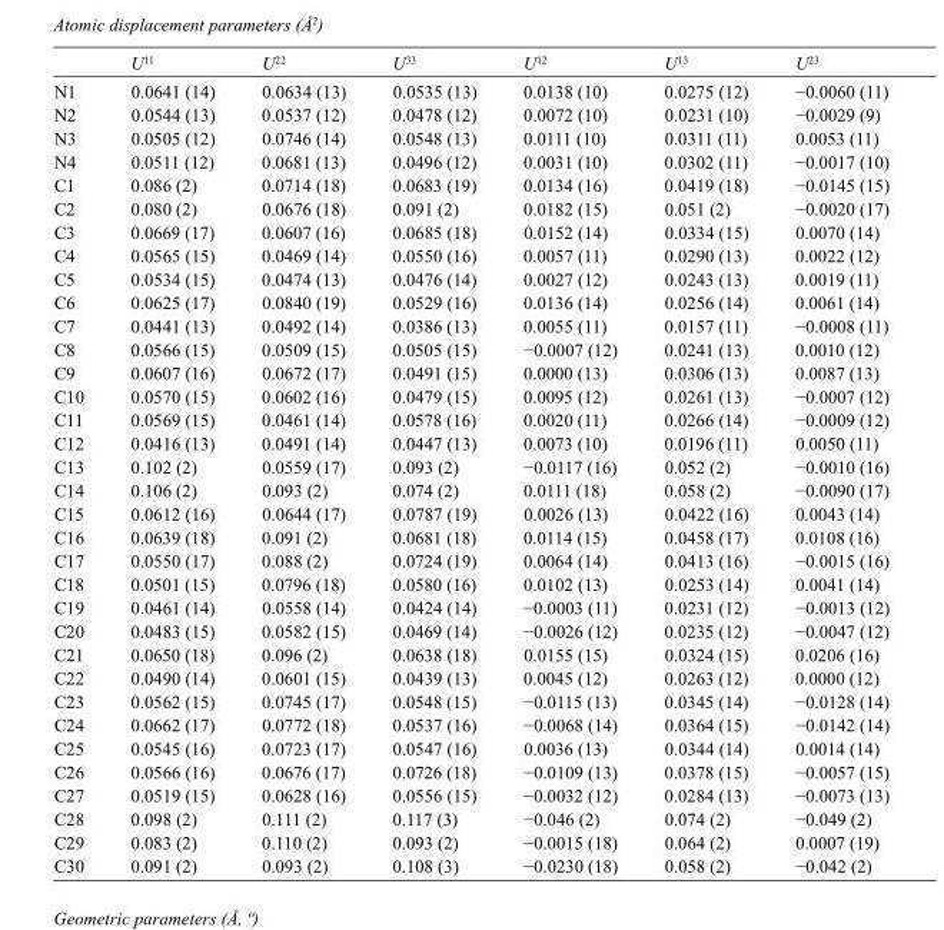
<table><thead><tr><td></td><td>U<sup>11</sup></td><td>U<sup>22</sup></td><td>U<sup>33</sup></td><td>U<sup>12</sup></td><td>U<sup>13</sup></td><td>U<sup>23</sup></td></tr></thead><tbody><tr><td>N1</td><td>0.0641 (14)</td><td>0.0634 (13)</td><td>0.0535 (13)</td><td>0.0138 (10)</td><td>0.0275 (12)</td><td>−0.0060 (11)</td></tr><tr><td>N2</td><td>0.0544 (13)</td><td>0.0537 (12)</td><td>0.0478 (12)</td><td>0.0072 (10)</td><td>0.0231 (10)</td><td>−0.0029 (9)</td></tr><tr><td>N3</td><td>0.0505 (12)</td><td>0.0746 (14)</td><td>0.0548 (13)</td><td>0.0111 (10)</td><td>0.0311 (11)</td><td>0.0053 (11)</td></tr><tr><td>N4</td><td>0.0511 (12)</td><td>0.0681 (13)</td><td>0.0496 (12)</td><td>0.0031 (10)</td><td>0.0302 (11)</td><td>−0.0017 (10)</td></tr><tr><td>C1</td><td>0.086 (2)</td><td>0.0714 (18)</td><td>0.0683 (19)</td><td>0.0134 (16)</td><td>0.0419 (18)</td><td>−0.0145 (15)</td></tr><tr><td>C2</td><td>0.080 (2)</td><td>0.0676 (18)</td><td>0.091 (2)</td><td>0.0182 (15)</td><td>0.051 (2)</td><td>−0.0020 (17)</td></tr><tr><td>C3</td><td>0.0669 (17)</td><td>0.0607 (16)</td><td>0.0685 (18)</td><td>0.0152 (14)</td><td>0.0334 (15)</td><td>0.0070 (14)</td></tr><tr><td>C4</td><td>0.0565 (15)</td><td>0.0469 (14)</td><td>0.0550 (16)</td><td>0.0057 (11)</td><td>0.0290 (13)</td><td>0.0022 (12)</td></tr><tr><td>C5</td><td>0.0534 (15)</td><td>0.0474 (13)</td><td>0.0476 (14)</td><td>0.0027 (12)</td><td>0.0243 (13)</td><td>0.0019 (11)</td></tr><tr><td>C6</td><td>0.0625 (17)</td><td>0.0840 (19)</td><td>0.0529 (16)</td><td>0.0136 (14)</td><td>0.0256 (14)</td><td>0.0061 (14)</td></tr><tr><td>C7</td><td>0.0441 (13)</td><td>0.0492 (14)</td><td>0.0386 (13)</td><td>0.0055 (11)</td><td>0.0157 (11)</td><td>−0.0008 (11)</td></tr><tr><td>C8</td><td>0.0566 (15)</td><td>0.0509 (15)</td><td>0.0505 (15)</td><td>−0.0007 (12)</td><td>0.0241 (13)</td><td>0.0010 (12)</td></tr><tr><td>C9</td><td>0.0607 (16)</td><td>0.0672 (17)</td><td>0.0491 (15)</td><td>0.0000 (13)</td><td>0.0306 (13)</td><td>0.0087 (13)</td></tr><tr><td>C10</td><td>0.0570 (15)</td><td>0.0602 (16)</td><td>0.0479 (15)</td><td>0.0095 (12)</td><td>0.0261 (13)</td><td>−0.0007 (12)</td></tr><tr><td>C11</td><td>0.0569 (15)</td><td>0.0461 (14)</td><td>0.0578 (16)</td><td>0.0020 (11)</td><td>0.0266 (14)</td><td>−0.0009 (12)</td></tr><tr><td>C12</td><td>0.0416 (13)</td><td>0.0491 (14)</td><td>0.0447 (13)</td><td>0.0073 (10)</td><td>0.0196 (11)</td><td>0.0050 (11)</td></tr><tr><td>C13</td><td>0.102 (2)</td><td>0.0559 (17)</td><td>0.093 (2)</td><td>−0.0117 (16)</td><td>0.052 (2)</td><td>−0.0010 (16)</td></tr><tr><td>C14</td><td>0.106 (2)</td><td>0.093 (2)</td><td>0.074 (2)</td><td>0.0111 (18)</td><td>0.058 (2)</td><td>−0.0090 (17)</td></tr><tr><td>C15</td><td>0.0612 (16)</td><td>0.0644 (17)</td><td>0.0787 (19)</td><td>0.0026 (13)</td><td>0.0422 (16)</td><td>0.0043 (14)</td></tr><tr><td>C16</td><td>0.0639 (18)</td><td>0.091 (2)</td><td>0.0681 (18)</td><td>0.0114 (15)</td><td>0.0458 (17)</td><td>0.0108 (16)</td></tr><tr><td>C17</td><td>0.0550 (17)</td><td>0.088 (2)</td><td>0.0724 (19)</td><td>0.0064 (14)</td><td>0.0413 (16)</td><td>−0.0015 (16)</td></tr><tr><td>C18</td><td>0.0501 (15)</td><td>0.0796 (18)</td><td>0.0580 (16)</td><td>0.0102 (13)</td><td>0.0253 (14)</td><td>0.0041 (14)</td></tr><tr><td>C19</td><td>0.0461 (14)</td><td>0.0558 (14)</td><td>0.0424 (14)</td><td>−0.0003 (11)</td><td>0.0231 (12)</td><td>−0.0013 (12)</td></tr><tr><td>C20</td><td>0.0483 (15)</td><td>0.0582 (15)</td><td>0.0469 (14)</td><td>−0.0026 (12)</td><td>0.0235 (12)</td><td>−0.0047 (12)</td></tr><tr><td>C21</td><td>0.0650 (18)</td><td>0.096 (2)</td><td>0.0638 (18)</td><td>0.0155 (15)</td><td>0.0324 (15)</td><td>0.0206 (16)</td></tr><tr><td>C22</td><td>0.0490 (14)</td><td>0.0601 (15)</td><td>0.0439 (13)</td><td>0.0045 (12)</td><td>0.0263 (12)</td><td>0.0000 (12)</td></tr><tr><td>C23</td><td>0.0562 (15)</td><td>0.0745 (17)</td><td>0.0548 (15)</td><td>−0.0115 (13)</td><td>0.0345 (14)</td><td>−0.0128 (14)</td></tr><tr><td>C24</td><td>0.0662 (17)</td><td>0.0772 (18)</td><td>0.0537 (16)</td><td>−0.0068 (14)</td><td>0.0364 (15)</td><td>−0.0142 (14)</td></tr><tr><td>C25</td><td>0.0545 (16)</td><td>0.0723 (17)</td><td>0.0547 (16)</td><td>0.0036 (13)</td><td>0.0344 (14)</td><td>0.0014 (14)</td></tr><tr><td>C26</td><td>0.0566 (16)</td><td>0.0676 (17)</td><td>0.0726 (18)</td><td>−0.0109 (13)</td><td>0.0378 (15)</td><td>−0.0057 (15)</td></tr><tr><td>C27</td><td>0.0519 (15)</td><td>0.0628 (16)</td><td>0.0556 (15)</td><td>−0.0032 (12)</td><td>0.0284 (13)</td><td>−0.0073 (13)</td></tr><tr><td>C28</td><td>0.098 (2)</td><td>0.111 (2)</td><td>0.117 (3)</td><td>−0.046 (2)</td><td>0.074 (2)</td><td>−0.049 (2)</td></tr><tr><td>C29</td><td>0.083 (2)</td><td>0.110 (2)</td><td>0.093 (2)</td><td>−0.0015 (18)</td><td>0.064 (2)</td><td>0.0007 (19)</td></tr><tr><td>C30</td><td>0.091 (2)</td><td>0.093 (2)</td><td>0.108 (3)</td><td>−0.0230 (18)</td><td>0.058 (2)</td><td>−0.042 (2)</td></tr></tbody></table>